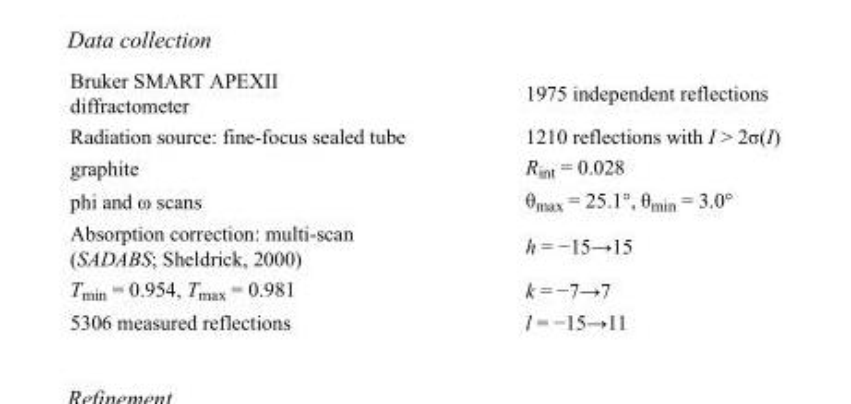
<table><tbody><tr><td>Bruker SMART APEXII diffractometer</td><td>1975 independent reflections</td></tr><tr><td>Radiation source: fine-focus sealed tube</td><td>1210 reflections with I &gt; 2σ(I)</td></tr><tr><td>graphite</td><td>R<sub>int</sub> = 0.028</td></tr><tr><td>phi and ω scans</td><td>θ<sub>max</sub> = 25.1°, θ<sub>min</sub> = 3.0°</td></tr><tr><td>Absorption correction: multi-scan (SADABS; Sheldrick, 2000)</td><td>h = −15→15</td></tr><tr><td>T<sub>min</sub> = 0.954, T<sub>max</sub> = 0.981</td><td>k = −7→7</td></tr><tr><td>5306 measured reflections</td><td>l = −15→11</td></tr></tbody></table>